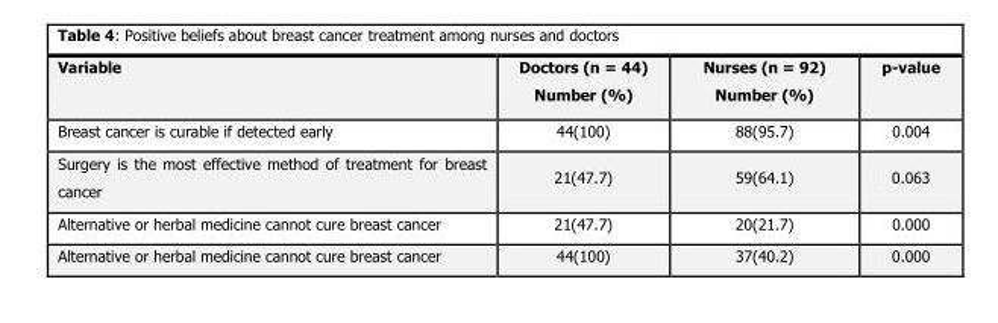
<table><thead><tr><td>Variable</td><td>Doctors (n = 44) Number (%)</td><td>Nurses (n = 92) Number (%)</td><td>p-value</td></tr></thead><tbody><tr><td>Breast cancer is curable if detected early</td><td>44(100)</td><td>88(95.7)</td><td>0.004</td></tr><tr><td>Surgery is the most effective method of treatment for breast cancer</td><td>21(47.7)</td><td>59(64.1)</td><td>0.063</td></tr><tr><td>Alternative or herbal medicine cannot cure breast cancer</td><td>21(47.7)</td><td>20(21.7)</td><td>0.000</td></tr><tr><td>Alternative or herbal medicine cannot cure breast cancer</td><td>44(100)</td><td>37(40.2)</td><td>0.000</td></tr></tbody></table>